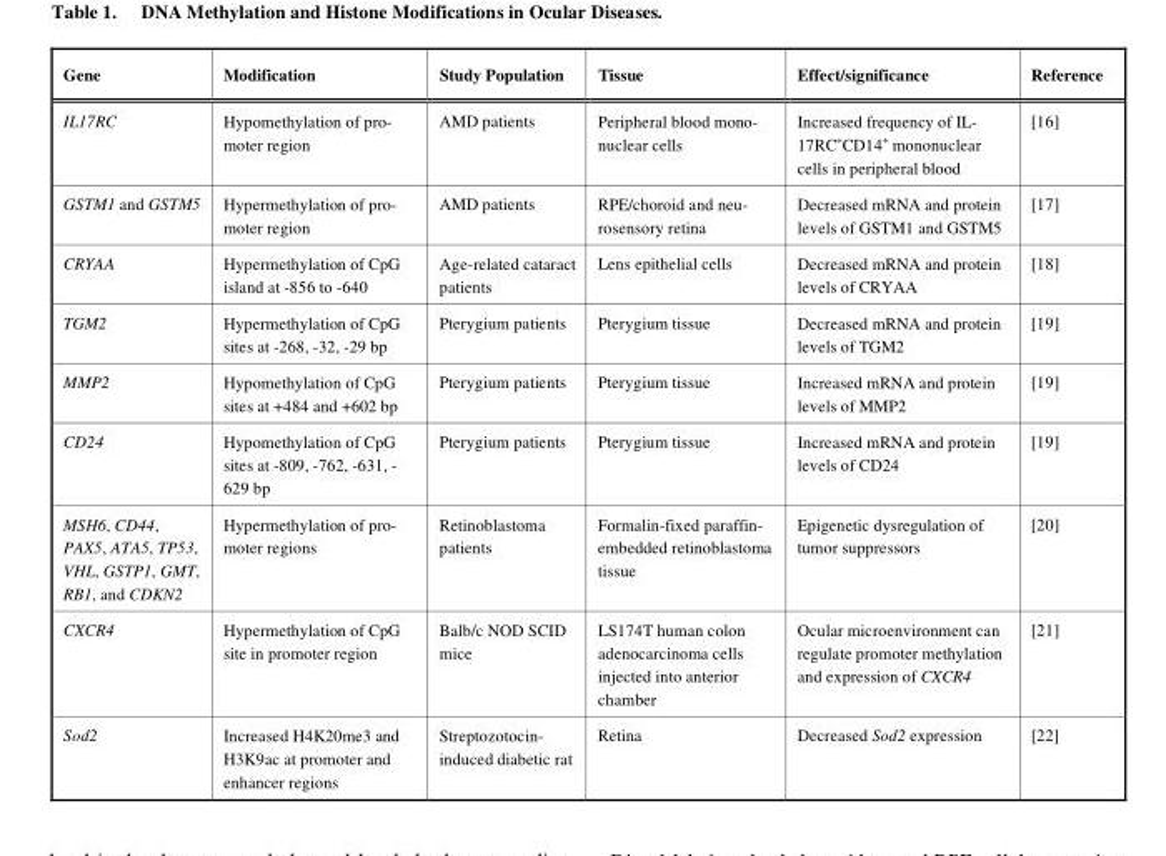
<table><thead><tr><td>Gene</td><td>Modification</td><td>Study Population</td><td>Tissue</td><td>Effect/significance</td><td>Reference</td></tr></thead><tbody><tr><td>IL17RC</td><td>Hypomethylation of pro- moter region</td><td>AMD patients</td><td>Peripheral blood mono- nuclear cells</td><td>Increased frequency of IL- 17RC+CD14+ mononuclear cells in peripheral blood</td><td>[16]</td></tr><tr><td>GSTM1 and GSTM5</td><td>Hypermethylation of pro- moter region</td><td>AMD patients</td><td>RPE/choroid and neu- rosensory retina</td><td>Decreased mRNA and protein levels of GSTM1 and GSTM5</td><td>[17]</td></tr><tr><td>CRYAA</td><td>Hypermethylation of CpG island at -856 to -640</td><td>Age-related cataract patients</td><td>Lens epithelial cells</td><td>Decreased mRNA and protein levels of CRYAA</td><td>[18]</td></tr><tr><td>TGM2</td><td>Hypermethylation of CpG sites at -268, -32, -29 bp</td><td>Pterygium patients</td><td>Pterygium tissue</td><td>Decreased mRNA and protein levels of TGM2</td><td>[19]</td></tr><tr><td>MMP2</td><td>Hypomethylation of CpG sites at +484 and +602 bp</td><td>Pterygium patients</td><td>Pterygium tissue</td><td>Increased mRNA and protein levels of MMP2</td><td>[19]</td></tr><tr><td>CD24</td><td>Hypomethylation of CpG sites at -809, -762, -631, - 629 bp</td><td>Pterygium patients</td><td>Pterygium tissue</td><td>Increased mRNA and protein levels of CD24</td><td>[19]</td></tr><tr><td>MSH6, CD44, PAX5, ATA5, TP53, VHL, GSTP1, GMT, RB1, and CDKN2</td><td>Hypermethylation of pro- moter regions</td><td>Retinoblastoma patients</td><td>Formalin-fixed paraffin- embedded retinoblastoma tissue</td><td>Epigenetic dysregulation of tumor suppressors</td><td>[20]</td></tr><tr><td>CXCR4</td><td>Hypermethylation of CpG site in promoter region</td><td>Balb/c NOD SCID mice</td><td>LS174T human colon adenocarcinoma cells injected into anterior chamber</td><td>Ocular microenvironment can regulate promoter methylation and expression of CXCR4</td><td>[21]</td></tr><tr><td>Sod2</td><td>Increased H4K20me3 and H3K9ac at promoter and enhancer regions</td><td>Streptozotocin- induced diabetic rat</td><td>Retina</td><td>Decreased Sod2 expression</td><td>[22]</td></tr></tbody></table>